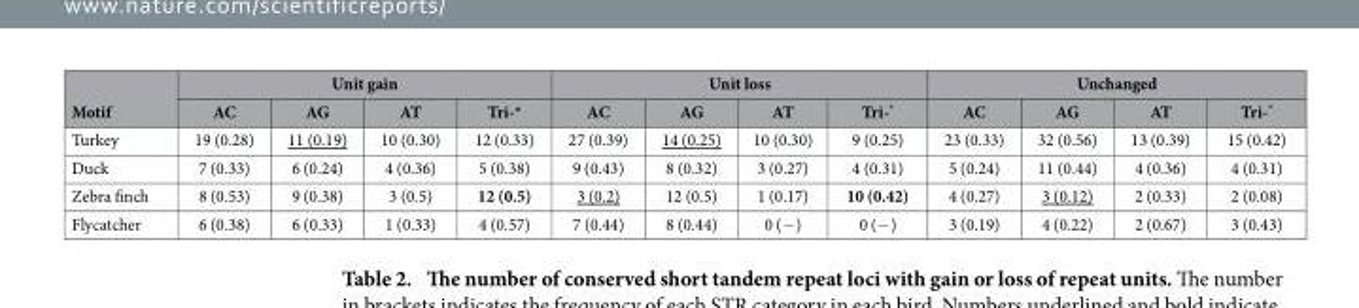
<table><thead><tr><td rowspan="2">Motif</td><td colspan="4">Unit gain</td><td colspan="4">Unit loss</td><td colspan="4">Unchanged</td></tr><tr><td>AC</td><td>AG</td><td>AT</td><td>Tri-*</td><td>AC</td><td>AG</td><td>AT</td><td>Tri-*</td><td>AC</td><td>AG</td><td>AT</td><td>Tri-*</td></tr></thead><tbody><tr><td>Turkey</td><td>19 (0.28)</td><td>11 (0.19)</td><td>10 (0.30)</td><td>12 (0.33)</td><td>27 (0.39)</td><td>14 (0.25)</td><td>10 (0.30)</td><td>9 (0.25)</td><td>23 (0.33)</td><td>32 (0.56)</td><td>13 (0.39)</td><td>15 (0.42)</td></tr><tr><td>Duck</td><td>7 (0.33)</td><td>6 (0.24)</td><td>4 (0.36)</td><td>5 (0.38)</td><td>9 (0.43)</td><td>8 (0.32)</td><td>3 (0.27)</td><td>4 (0.31)</td><td>5 (0.24)</td><td>11 (0.44)</td><td>4 (0.36)</td><td>4 (0.31)</td></tr><tr><td>Zebra finch</td><td>8 (0.53)</td><td>9 (0.38)</td><td>3 (0.5)</td><td>12 (0.5)</td><td>3 (0.2)</td><td>12 (0.5)</td><td>1 (0.17)</td><td>10 (0.42)</td><td>4 (0.27)</td><td>3 (0.12)</td><td>2 (0.33)</td><td>2 (0.08)</td></tr><tr><td>Flycatcher</td><td>6 (0.38)</td><td>6 (0.33)</td><td>1 (0.33)</td><td>4 (0.57)</td><td>7 (0.44)</td><td>8 (0.44)</td><td>0 (− )</td><td>0 (− )</td><td>3 (0.19)</td><td>4 (0.22)</td><td>2 (0.67)</td><td>3 (0.43)</td></tr></tbody></table>